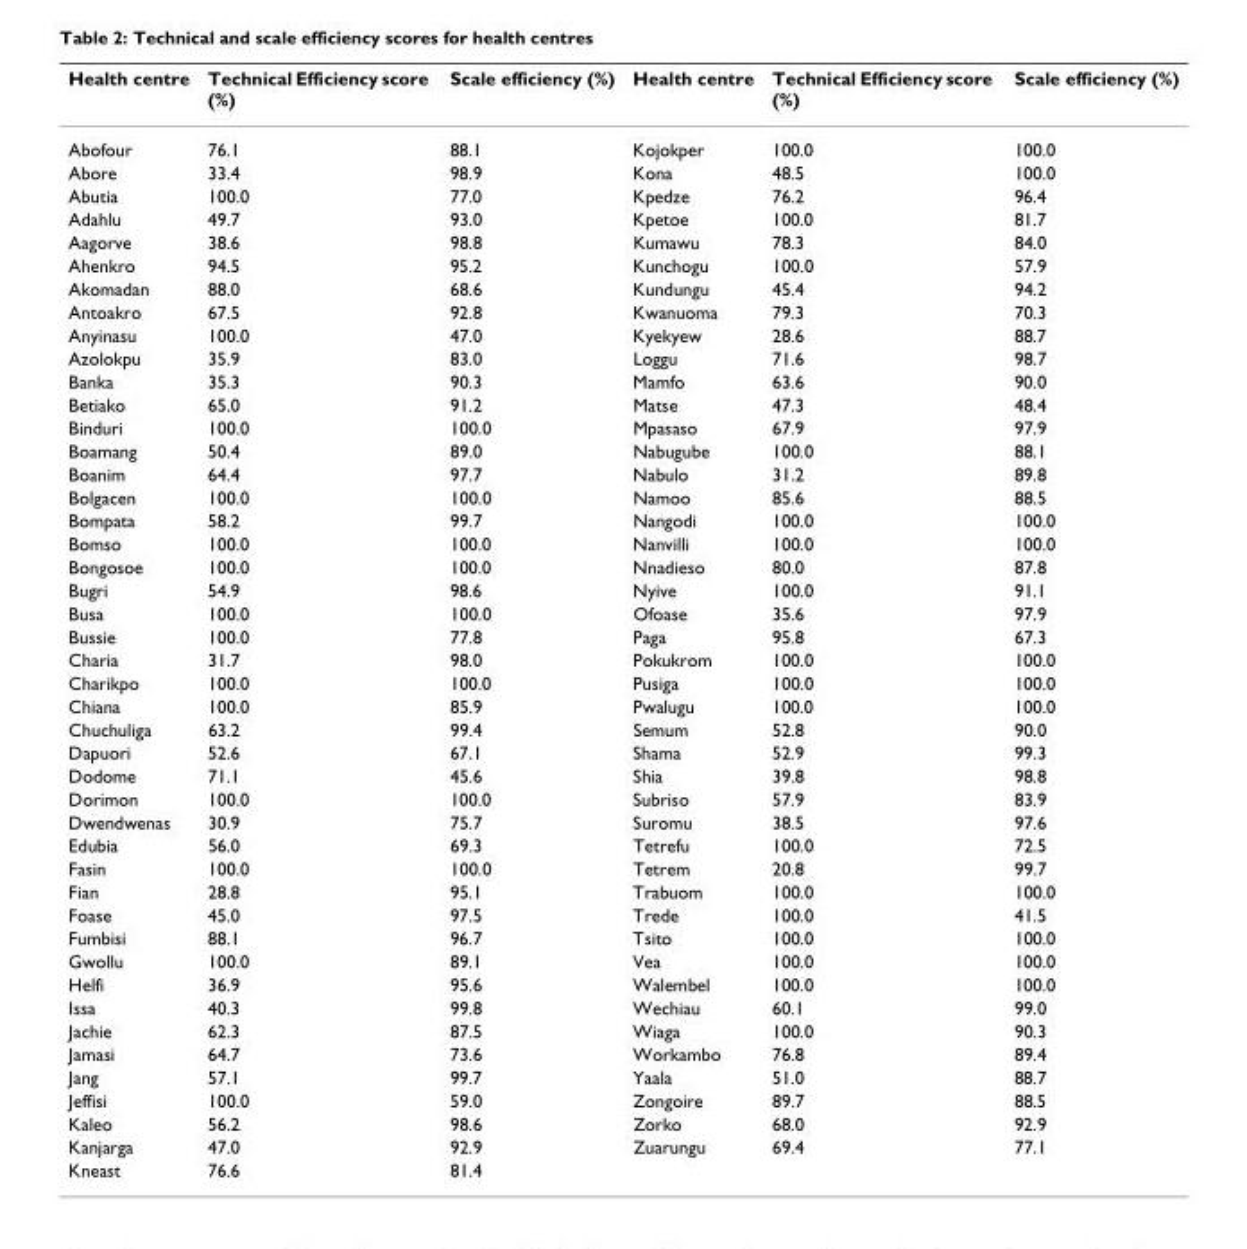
<table><thead><tr><td>Health centre</td><td>Technical Efficiency score (%)</td><td>Scale efficiency (%)</td><td>Health centre</td><td>Technical Efficiency score (%)</td><td>Scale efficiency (%)</td></tr></thead><tbody><tr><td>Abofour</td><td>76.1</td><td>88.1</td><td>Kojokper</td><td>100.0</td><td>100.0</td></tr><tr><td>Abore</td><td>33.4</td><td>98.9</td><td>Kona</td><td>48.5</td><td>100.0</td></tr><tr><td>Abutia</td><td>100.0</td><td>77.0</td><td>Kpedze</td><td>76.2</td><td>96.4</td></tr><tr><td>Adahlu</td><td>49.7</td><td>93.0</td><td>Kpetoe</td><td>100.0</td><td>81.7</td></tr><tr><td>Aagorve</td><td>38.6</td><td>98.8</td><td>Kumawu</td><td>78.3</td><td>84.0</td></tr><tr><td>Ahenkro</td><td>94.5</td><td>95.2</td><td>Kunchogu</td><td>100.0</td><td>57.9</td></tr><tr><td>Akomadan</td><td>88.0</td><td>68.6</td><td>Kundungu</td><td>45.4</td><td>94.2</td></tr><tr><td>Antoakro</td><td>67.5</td><td>92.8</td><td>Kwanuoma</td><td>79.3</td><td>70.3</td></tr><tr><td>Anyinasu</td><td>100.0</td><td>47.0</td><td>Kyekyew</td><td>28.6</td><td>88.7</td></tr><tr><td>Azolokpu</td><td>35.9</td><td>83.0</td><td>Loggu</td><td>71.6</td><td>98.7</td></tr><tr><td>Banka</td><td>35.3</td><td>90.3</td><td>Mamfo</td><td>63.6</td><td>90.0</td></tr><tr><td>Betiako</td><td>65.0</td><td>91.2</td><td>Matse</td><td>47.3</td><td>48.4</td></tr><tr><td>Binduri</td><td>100.0</td><td>100.0</td><td>Mpasaso</td><td>67.9</td><td>97.9</td></tr><tr><td>Boamang</td><td>50.4</td><td>89.0</td><td>Nabugube</td><td>100.0</td><td>88.1</td></tr><tr><td>Boanim</td><td>64.4</td><td>97.7</td><td>Nabulo</td><td>31.2</td><td>89.8</td></tr><tr><td>Bolgacen</td><td>100.0</td><td>100.0</td><td>Namoo</td><td>85.6</td><td>88.5</td></tr><tr><td>Bompata</td><td>58.2</td><td>99.7</td><td>Nangodi</td><td>100.0</td><td>100.0</td></tr><tr><td>Bomso</td><td>100.0</td><td>100.0</td><td>Nanvilli</td><td>100.0</td><td>100.0</td></tr><tr><td>Bongosoe</td><td>100.0</td><td>100.0</td><td>Nnadieso</td><td>80.0</td><td>87.8</td></tr><tr><td>Bugri</td><td>54.9</td><td>98.6</td><td>Nyive</td><td>100.0</td><td>91.1</td></tr><tr><td>Busa</td><td>100.0</td><td>100.0</td><td>Ofoase</td><td>35.6</td><td>97.9</td></tr><tr><td>Bussie</td><td>100.0</td><td>77.8</td><td>Paga</td><td>95.8</td><td>67.3</td></tr><tr><td>Charia</td><td>31.7</td><td>98.0</td><td>Pokukrom</td><td>100.0</td><td>100.0</td></tr><tr><td>Charikpo</td><td>100.0</td><td>100.0</td><td>Pusiga</td><td>100.0</td><td>100.0</td></tr><tr><td>Chiana</td><td>100.0</td><td>85.9</td><td>Pwalugu</td><td>100.0</td><td>100.0</td></tr><tr><td>Chuchuliga</td><td>63.2</td><td>99.4</td><td>Semum</td><td>52.8</td><td>90.0</td></tr><tr><td>Dapuori</td><td>52.6</td><td>67.1</td><td>Shama</td><td>52.9</td><td>99.3</td></tr><tr><td>Dodome</td><td>71.1</td><td>45.6</td><td>Shia</td><td>39.8</td><td>98.8</td></tr><tr><td>Dorimon</td><td>100.0</td><td>100.0</td><td>Subriso</td><td>57.9</td><td>83.9</td></tr><tr><td>Dwendwenas</td><td>30.9</td><td>75.7</td><td>Suromu</td><td>38.5</td><td>97.6</td></tr><tr><td>Edubia</td><td>56.0</td><td>69.3</td><td>Tetrefu</td><td>100.0</td><td>72.5</td></tr><tr><td>Fasin</td><td>100.0</td><td>100.0</td><td>Tetrem</td><td>20.8</td><td>99.7</td></tr><tr><td>Fian</td><td>28.8</td><td>95.1</td><td>Trabuom</td><td>100.0</td><td>100.0</td></tr><tr><td>Foase</td><td>45.0</td><td>97.5</td><td>Trede</td><td>100.0</td><td>41.5</td></tr><tr><td>Fumbisi</td><td>88.1</td><td>96.7</td><td>Tsito</td><td>100.0</td><td>100.0</td></tr><tr><td>Gwollu</td><td>100.0</td><td>89.1</td><td>Vea</td><td>100.0</td><td>100.0</td></tr><tr><td>Helfi</td><td>36.9</td><td>95.6</td><td>Walembel</td><td>100.0</td><td>100.0</td></tr><tr><td>Issa</td><td>40.3</td><td>99.8</td><td>Wechiau</td><td>60.1</td><td>99.0</td></tr><tr><td>Jachie</td><td>62.3</td><td>87.5</td><td>Wiaga</td><td>100.0</td><td>90.3</td></tr><tr><td>Jamasi</td><td>64.7</td><td>73.6</td><td>Workambo</td><td>76.8</td><td>89.4</td></tr><tr><td>Jang</td><td>57.1</td><td>99.7</td><td>Yaala</td><td>51.0</td><td>88.7</td></tr><tr><td>Jeffisi</td><td>100.0</td><td>59.0</td><td>Zongoire</td><td>89.7</td><td>88.5</td></tr><tr><td>Kaleo</td><td>56.2</td><td>98.6</td><td>Zorko</td><td>68.0</td><td>92.9</td></tr><tr><td>Kanjarga</td><td>47.0</td><td>92.9</td><td>Zuarungu</td><td>69.4</td><td>77.1</td></tr><tr><td>Kneast</td><td>76.6</td><td>81.4</td><td></td><td></td><td></td></tr></tbody></table>